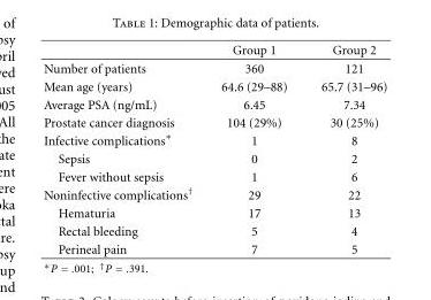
<table><thead><tr><td></td><td>Group 1</td><td>Group 2</td></tr></thead><tbody><tr><td>Number of patients</td><td>360</td><td>121</td></tr><tr><td>Mean age (years)</td><td>64.6 (29–88)</td><td>65.7 (31–96)</td></tr><tr><td>Average PSA (ng/mL)</td><td>6.45</td><td>7.34</td></tr><tr><td>Prostate cancer diagnosis</td><td>104 (29%)</td><td>30 (25%)</td></tr><tr><td>Infective complications∗</td><td>1</td><td>8</td></tr><tr><td>Sepsis</td><td>0</td><td>2</td></tr><tr><td>Fever without sepsis</td><td>1</td><td>6</td></tr><tr><td>Noninfective complications<sup>†</sup></td><td>29</td><td>22</td></tr><tr><td>Hematuria</td><td>17</td><td>13</td></tr><tr><td>Rectal bleeding</td><td>5</td><td>4</td></tr><tr><td>Perineal pain</td><td>7</td><td>5</td></tr></tbody></table>